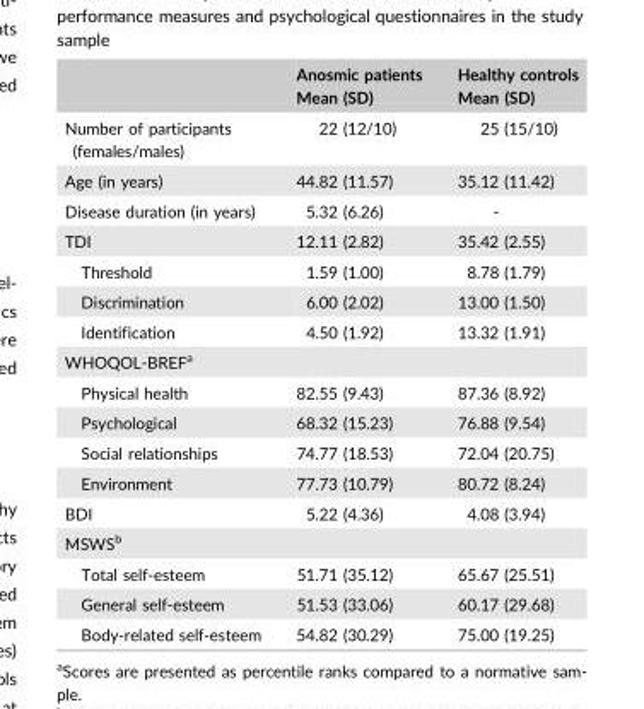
<table><thead><tr><td></td><td>Anosmic patients Mean (SD)</td><td>Healthy controls Mean (SD)</td></tr></thead><tbody><tr><td>Number of participants (females/males)</td><td>22 (12/10)</td><td>25 (15/10)</td></tr><tr><td>Age (in years)</td><td>44.82 (11.57)</td><td>35.12 (11.42)</td></tr><tr><td>Disease duration (in years)</td><td>5.32 (6.26)</td><td>-</td></tr><tr><td>TDI</td><td>12.11 (2.82)</td><td>35.42 (2.55)</td></tr><tr><td>Threshold</td><td>1.59 (1.00)</td><td>8.78 (1.79)</td></tr><tr><td>Discrimination</td><td>6.00 (2.02)</td><td>13.00 (1.50)</td></tr><tr><td>Identification</td><td>4.50 (1.92)</td><td>13.32 (1.91)</td></tr><tr><td colspan="3">WHOQOL-BREF<sup>a</sup></td></tr><tr><td>Physical health</td><td>82.55 (9.43)</td><td>87.36 (8.92)</td></tr><tr><td>Psychological</td><td>68.32 (15.23)</td><td>76.88 (9.54)</td></tr><tr><td>Social relationships</td><td>74.77 (18.53)</td><td>72.04 (20.75)</td></tr><tr><td>Environment</td><td>77.73 (10.79)</td><td>80.72 (8.24)</td></tr><tr><td>BDI</td><td>5.22 (4.36)</td><td>4.08 (3.94)</td></tr><tr><td colspan="3">MSWS<sup>b</sup></td></tr><tr><td>Total self-esteem</td><td>51.71 (35.12)</td><td>65.67 (25.51)</td></tr><tr><td>General self-esteem</td><td>51.53 (33.06)</td><td>60.17 (29.68)</td></tr><tr><td>Body-related self-esteem</td><td>54.82 (30.29)</td><td>75.00 (19.25)</td></tr></tbody></table>